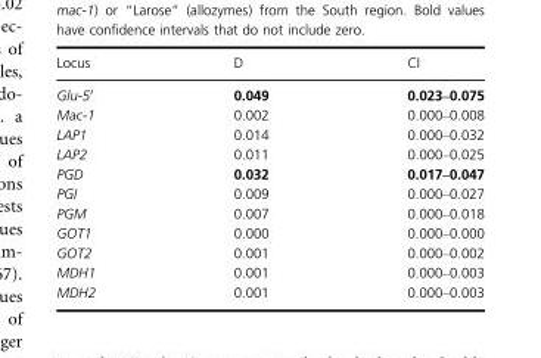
<table><thead><tr><td>Locus</td><td>D</td><td>CI</td></tr></thead><tbody><tr><td>Glu-5′</td><td>0.049</td><td>0.023–0.075</td></tr><tr><td>Mac-1</td><td>0.002</td><td>0.000–0.008</td></tr><tr><td>LAP1</td><td>0.014</td><td>0.000–0.032</td></tr><tr><td>LAP2</td><td>0.011</td><td>0.000–0.025</td></tr><tr><td>PGD</td><td>0.032</td><td>0.017–0.047</td></tr><tr><td>PGI</td><td>0.009</td><td>0.000–0.027</td></tr><tr><td>PGM</td><td>0.007</td><td>0.000–0.018</td></tr><tr><td>GOT1</td><td>0.000</td><td>0.000–0.000</td></tr><tr><td>GOT2</td><td>0.001</td><td>0.000–0.002</td></tr><tr><td>MDH1</td><td>0.001</td><td>0.000–0.003</td></tr><tr><td>MDH2</td><td>0.001</td><td>0.000–0.003</td></tr></tbody></table>